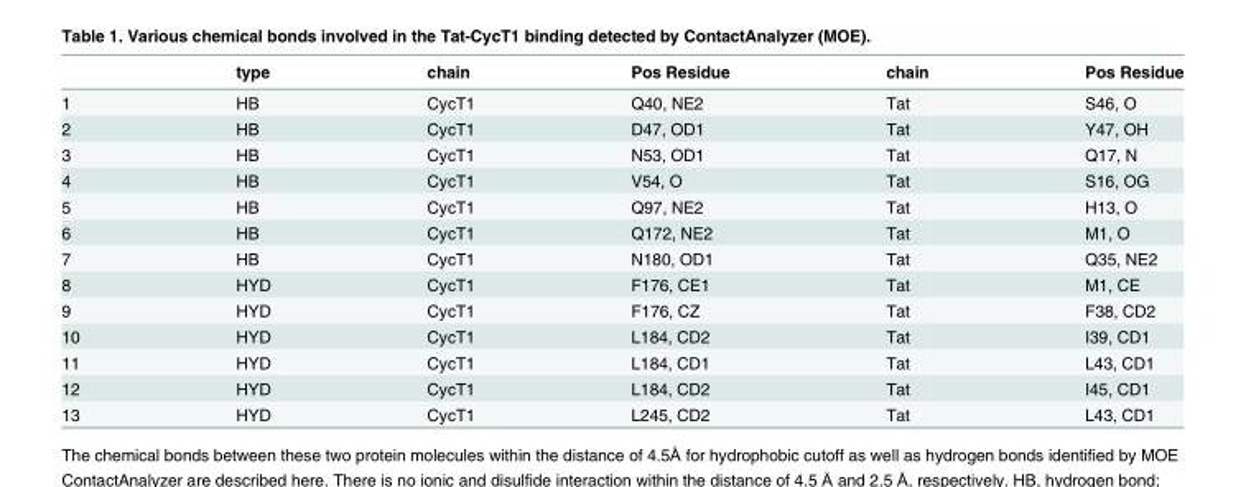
<table><thead><tr><td></td><td>type</td><td>chain</td><td>Pos Residue</td><td>chain</td><td>Pos Residue</td></tr></thead><tbody><tr><td>1</td><td>HB</td><td>CycT1</td><td>Q40, NE2</td><td>Tat</td><td>S46, O</td></tr><tr><td>2</td><td>HB</td><td>CycT1</td><td>D47, OD1</td><td>Tat</td><td>Y47, OH</td></tr><tr><td>3</td><td>HB</td><td>CycT1</td><td>N53, OD1</td><td>Tat</td><td>Q17, N</td></tr><tr><td>4</td><td>HB</td><td>CycT1</td><td>V54, O</td><td>Tat</td><td>S16, OG</td></tr><tr><td>5</td><td>HB</td><td>CycT1</td><td>Q97, NE2</td><td>Tat</td><td>H13, O</td></tr><tr><td>6</td><td>HB</td><td>CycT1</td><td>Q172, NE2</td><td>Tat</td><td>M1, O</td></tr><tr><td>7</td><td>HB</td><td>CycT1</td><td>N180, OD1</td><td>Tat</td><td>Q35, NE2</td></tr><tr><td>8</td><td>HYD</td><td>CycT1</td><td>F176, CE1</td><td>Tat</td><td>M1, CE</td></tr><tr><td>9</td><td>HYD</td><td>CycT1</td><td>F176, CZ</td><td>Tat</td><td>F38, CD2</td></tr><tr><td>10</td><td>HYD</td><td>CycT1</td><td>L184, CD2</td><td>Tat</td><td>I39, CD1</td></tr><tr><td>11</td><td>HYD</td><td>CycT1</td><td>L184, CD1</td><td>Tat</td><td>L43, CD1</td></tr><tr><td>12</td><td>HYD</td><td>CycT1</td><td>L184, CD2</td><td>Tat</td><td>I45, CD1</td></tr><tr><td>13</td><td>HYD</td><td>CycT1</td><td>L245, CD2</td><td>Tat</td><td>L43, CD1</td></tr></tbody></table>